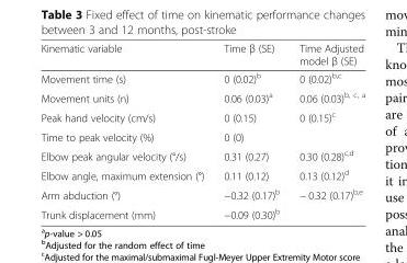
<table><thead><tr><td>Kinematic variable</td><td>Time β (SE)</td><td>Time Adjusted model β (SE)</td></tr></thead><tbody><tr><td>Movement time (s)</td><td>0 (0.02)<sup>b</sup></td><td>0 (0.02)<sup>b,c</sup></td></tr><tr><td>Movement units (n)</td><td>0.06 (0.03)<sup>a</sup></td><td>0.06 (0.03)<sup>b, c, a</sup></td></tr><tr><td>Peak hand velocity (cm/s)</td><td>0 (0.15)</td><td>0 (0.15)<sup>c</sup></td></tr><tr><td>Time to peak velocity (%)</td><td>0 (0)</td><td></td></tr><tr><td>Elbow peak angular velocity (°/s)</td><td>0.31 (0.27)</td><td>0.30 (0.28)<sup>c,d</sup></td></tr><tr><td>Elbow angle, maximum extension (°)</td><td>0.11 (0.12)</td><td>0.13 (0.12)<sup>d</sup></td></tr><tr><td>Arm abduction (°)</td><td>−0.32 (0.17)<sup>b</sup></td><td>− 0.32 (0.17)<sup>b,e</sup></td></tr><tr><td>Trunk displacement (mm)</td><td>−0.09 (0.30)<sup>b</sup></td><td></td></tr></tbody></table>